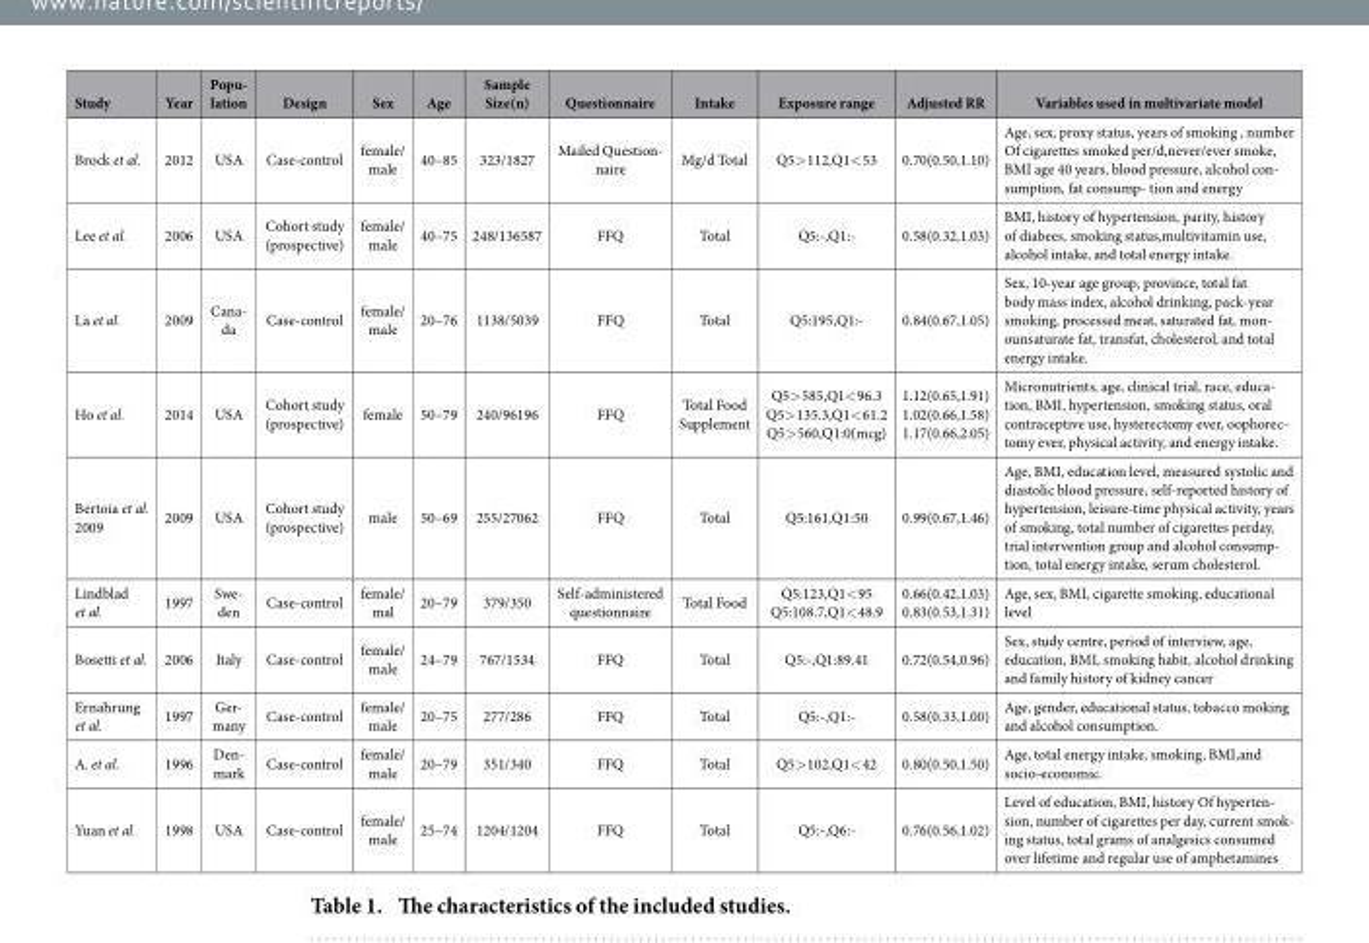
<table><thead><tr><td>Study</td><td>Year</td><td>Popu- lation</td><td>Design</td><td>Sex</td><td>Age</td><td>Sample Size(n)</td><td>Questionnaire</td><td>Intake</td><td>Exposure range</td><td>Adjusted RR</td><td>Variables used in multivariate model</td></tr></thead><tbody><tr><td>Brock et al.</td><td>2012</td><td>USA</td><td>Case-control</td><td>female/ male</td><td>40–85</td><td>323/1827</td><td>Mailed Question- naire</td><td>Mg/d Total</td><td>Q5&gt; 112,Q1&lt; 53</td><td>0.70(0.50,1.10)</td><td>Age, sex, proxy status, years of smoking , number Of cigarettes smoked per/d,never/ever smoke, BMI age 40 years, blood pressure, alcohol con- sumption, fat consump- tion and energy</td></tr><tr><td>Lee et al.</td><td>2006</td><td>USA</td><td>Cohort study (prospective)</td><td>female/ male</td><td>40–75</td><td>248/136587</td><td>FFQ</td><td>Total</td><td>Q5:-,Q1:-</td><td>0.58(0.32,1.03)</td><td>BMI, history of hypertension, parity, history of diabees, smoking status,multivitamin use, alcohol intake, and total energy intake.</td></tr><tr><td>La et al.</td><td>2009</td><td>Cana- da</td><td>Case-control</td><td>female/ male</td><td>20–76</td><td>1138/5039</td><td>FFQ</td><td>Total</td><td>Q5:195,Q1:-</td><td>0.84(0.67,1.05)</td><td>Sex, 10-year age group, province, total fat body mass index, alcohol drinking, pack-year smoking, processed meat, saturated fat, mon- ounsaturate fat, transfat, cholesterol, and total energy intake.</td></tr><tr><td>Ho et al.</td><td>2014</td><td>USA</td><td>Cohort study (prospective)</td><td>female</td><td>50–79</td><td>240/96196</td><td>FFQ</td><td>Total Food Supplement</td><td>Q5&gt; 585,Q1&lt; 96.3 Q5&gt; 135.3,Q1&lt; 61.2 Q5&gt; 560,Q1:0(mcg)</td><td>1.12(0.65,1.91) 1.02(0.66,1.58) 1.17(0.66,2.05)</td><td>Micronutrients, age, clinical trial, race, educa- tion, BMI, hypertension, smoking status, oral contraceptive use, hysterectomy ever, oophorec- tomy ever, physical activity, and energy intake.</td></tr><tr><td>Bertoia et al. 2009</td><td>2009</td><td>USA</td><td>Cohort study (prospective)</td><td>male</td><td>50–69</td><td>255/27062</td><td>FFQ</td><td>Total</td><td>Q5:161,Q1:50</td><td>0.99(0.67,1.46)</td><td>Age, BMI, education level, measured systolic and diastolic blood pressure, self-reported history of hypertension, leisure-time physical activity, years of smoking, total number of cigarettes perday, trial intervention group and alcohol consump- tion, total energy intake, serum cholesterol.</td></tr><tr><td>Lindblad et al.</td><td>1997</td><td>Swe- den</td><td>Case-control</td><td>female/ mal</td><td>20–79</td><td>379/350</td><td>Self-administered questionnaire</td><td>Total Food</td><td>Q5:123,Q1&lt; 95 Q5:108.7,Q1&lt; 48.9</td><td>0.66(0.42,1.03) 0.83(0.53,1.31)</td><td>Age, sex, BMI, cigarette smoking, educational level</td></tr><tr><td>Bosetti et al.</td><td>2006</td><td>Italy</td><td>Case-control</td><td>female/ male</td><td>24–79</td><td>767/1534</td><td>FFQ</td><td>Total</td><td>Q5:-,Q1:89.41</td><td>0.72(0.54,0.96)</td><td>Sex, study centre, period of interview, age, education, BMI, smoking habit, alcohol drinking and family history of kidney cancer</td></tr><tr><td>Ernahrung et al.</td><td>1997</td><td>Ger- many</td><td>Case-control</td><td>female/ male</td><td>20–75</td><td>277/286</td><td>FFQ</td><td>Total</td><td>Q5:-,Q1:-</td><td>0.58(0.33,1.00)</td><td>Age, gender, educational status, tobacco moking and alcohol consumption.</td></tr><tr><td>A. et al.</td><td>1996</td><td>Den- mark</td><td>Case-control</td><td>female/ male</td><td>20–79</td><td>351/340</td><td>FFQ</td><td>Total</td><td>Q5&gt; 102,Q1&lt; 42</td><td>0.80(0.50,1.50)</td><td>Age, total energy intake, smoking, BMI,and socio-economic.</td></tr><tr><td>Yuan et al.</td><td>1998</td><td>USA</td><td>Case-control</td><td>female/ male</td><td>25–74</td><td>1204/1204</td><td>FFQ</td><td>Total</td><td>Q5:-,Q6:-</td><td>0.76(0.56,1.02)</td><td>Level of education, BMI, history Of hyperten- sion, number of cigarettes per day, current smok- ing status, total grams of analgesics consumed over lifetime and regular use of amphetamines</td></tr></tbody></table>